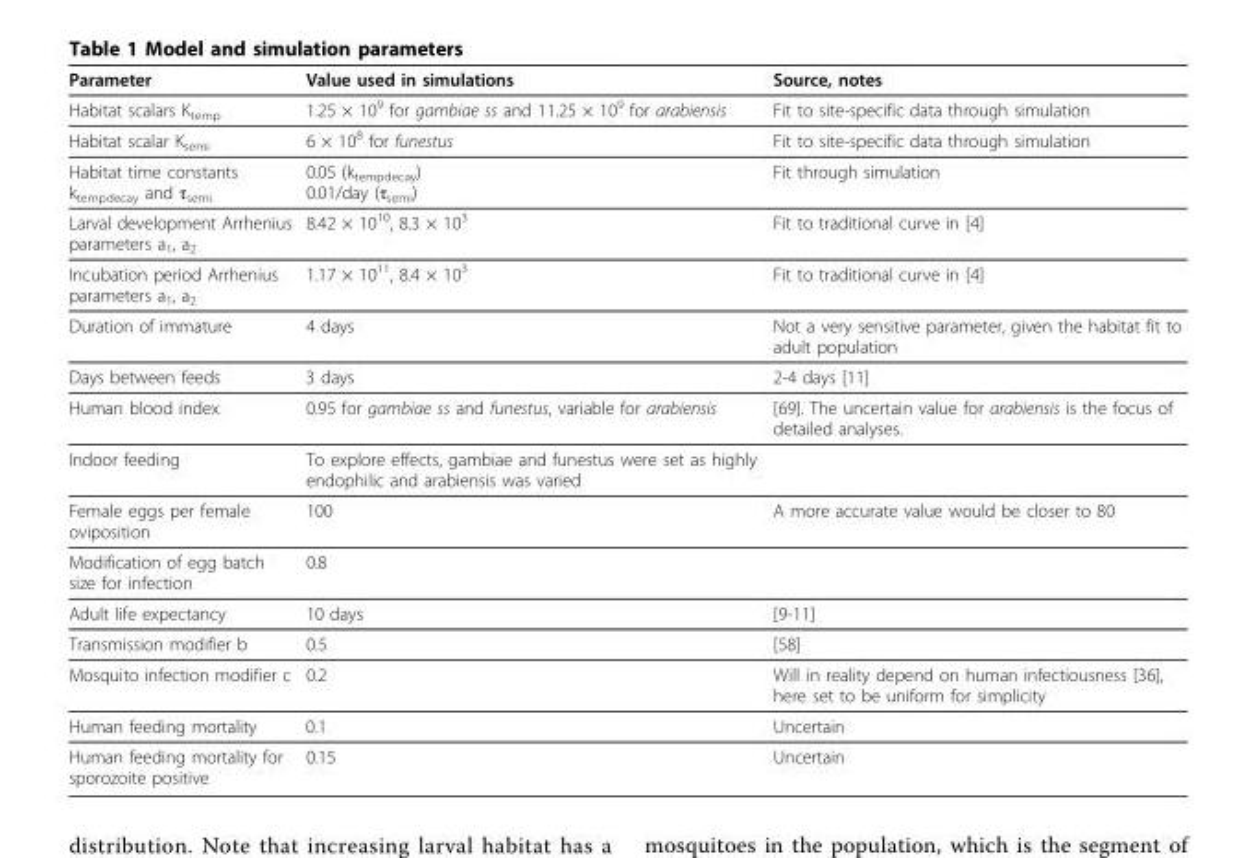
<table><thead><tr><td>Parameter</td><td>Value used in simulations</td><td>Source, notes</td></tr></thead><tbody><tr><td>Habitat scalars K<sub>temp</sub></td><td>1.25 × 10<sup>9</sup> for gambiae ss and 11.25 × 10<sup>9</sup> for arabiensis</td><td>Fit to site-specific data through simulation</td></tr><tr><td>Habitat scalar K<sub>semi</sub></td><td>6 × 10<sup>8</sup> for funestus</td><td>Fit to site-specific data through simulation</td></tr><tr><td>Habitat time constants k<sub>tempdecay</sub> and τ<sub>semi</sub></td><td>0.05 (k<sub>tempdecay</sub>) 0.01/day (τ<sub>semi</sub>)</td><td>Fit through simulation</td></tr><tr><td>Larval development Arrhenius parameters a<sub>1</sub>, a<sub>2</sub></td><td>8.42 × 10<sup>10</sup>, 8.3 × 10<sup>3</sup></td><td>Fit to traditional curve in [4]</td></tr><tr><td>Incubation period Arrhenius parameters a<sub>1</sub>, a<sub>2</sub></td><td>1.17 × 10<sup>11</sup>, 8.4 × 10<sup>3</sup></td><td>Fit to traditional curve in [4]</td></tr><tr><td>Duration of immature</td><td>4 days</td><td>Not a very sensitive parameter, given the habitat fit to adult population</td></tr><tr><td>Days between feeds</td><td>3 days</td><td>2-4 days [11]</td></tr><tr><td>Human blood index</td><td>0.95 for gambiae ss and funestus, variable for arabiensis</td><td>[69]. The uncertain value for arabiensis is the focus of detailed analyses.</td></tr><tr><td>Indoor feeding</td><td>To explore effects, gambiae and funestus were set as highly endophilic and arabiensis was varied</td><td></td></tr><tr><td>Female eggs per female oviposition</td><td>100</td><td>A more accurate value would be closer to 80</td></tr><tr><td>Modification of egg batch size for infection</td><td>0.8</td><td></td></tr><tr><td>Adult life expectancy</td><td>10 days</td><td>[9-11]</td></tr><tr><td>Transmission modifier b</td><td>0.5</td><td>[58]</td></tr><tr><td>Mosquito infection modifier c</td><td>0.2</td><td>Will in reality depend on human infectiousness [36], here set to be uniform for simplicity</td></tr><tr><td>Human feeding mortality</td><td>0.1</td><td>Uncertain</td></tr><tr><td>Human feeding mortality for sporozoite positive</td><td>0.15</td><td>Uncertain</td></tr></tbody></table>